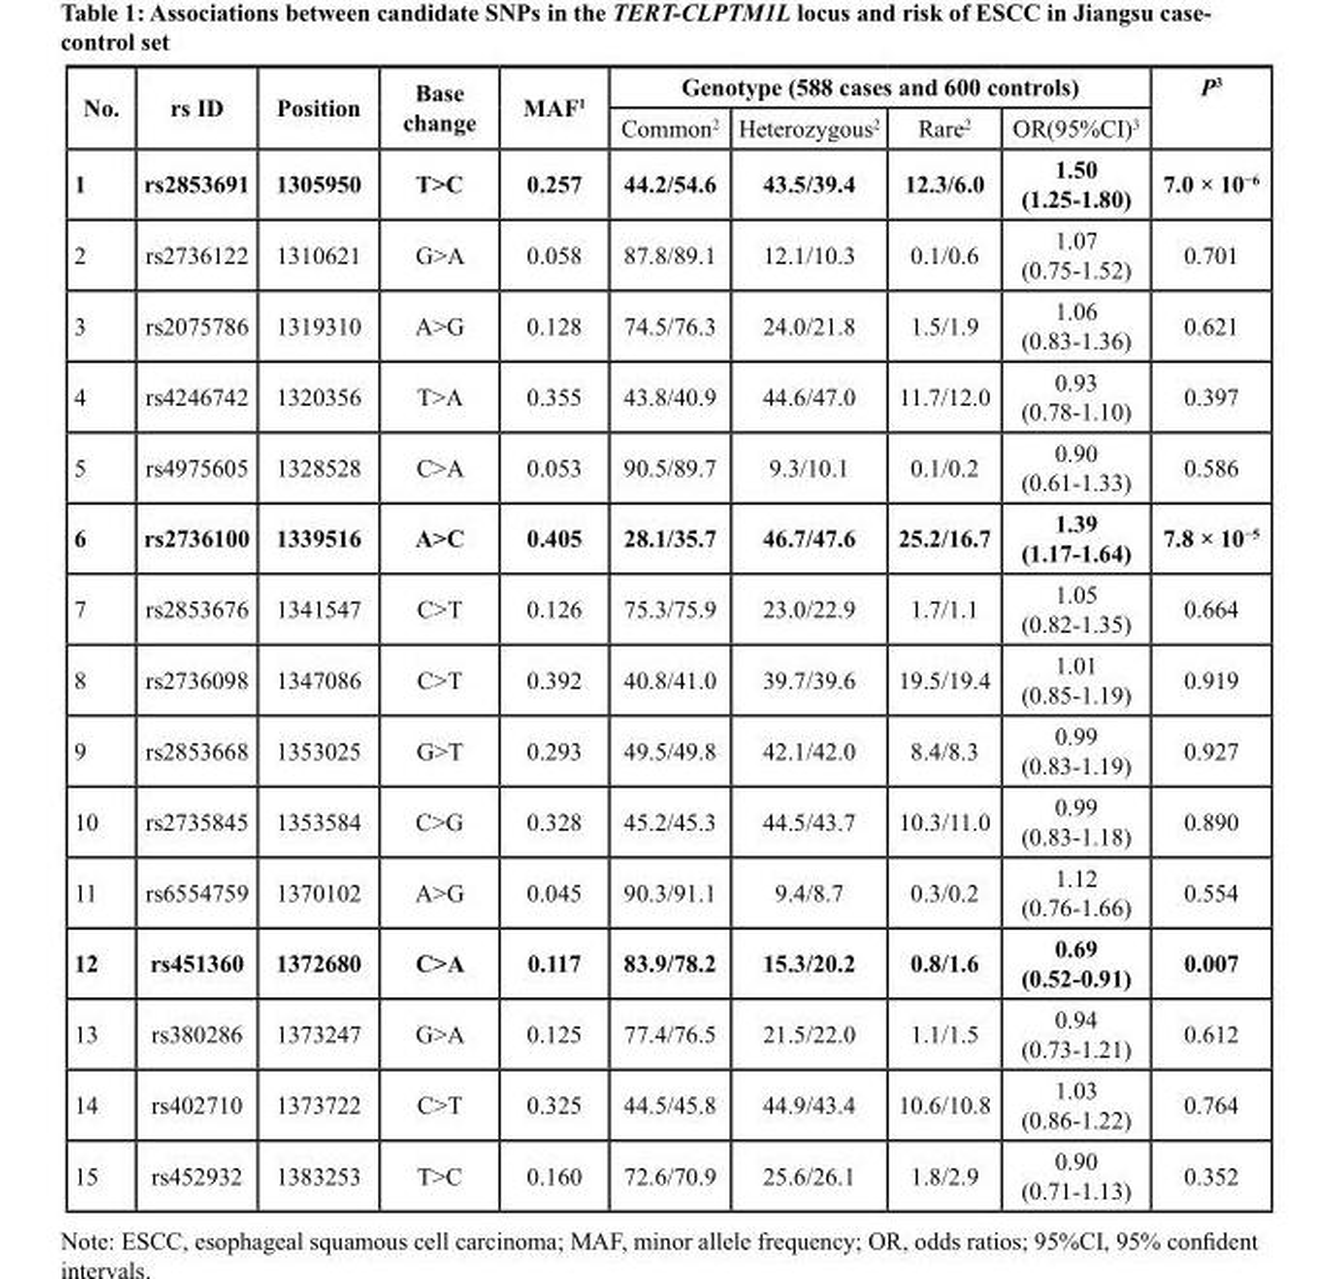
<table><thead><tr><td rowspan="2">No.</td><td rowspan="2">rs ID</td><td rowspan="2">Position</td><td rowspan="2">Base change</td><td rowspan="2">MAF<sup>1</sup></td><td colspan="4">Genotype (588 cases and 600 controls)</td><td rowspan="2">P<sup>3</sup></td></tr><tr><td>Common<sup>2</sup></td><td>Heterozygous<sup>2</sup></td><td>Rare<sup>2</sup></td><td>OR(95%CI)<sup>3</sup></td></tr></thead><tbody><tr><td>1</td><td>rs2853691</td><td>1305950</td><td>T&gt;C</td><td>0.257</td><td>44.2/54.6</td><td>43.5/39.4</td><td>12.3/6.0</td><td>1.50 (1.25-1.80)</td><td>7.0 × 10<sup>−6</sup></td></tr><tr><td>2</td><td>rs2736122</td><td>1310621</td><td>G&gt;A</td><td>0.058</td><td>87.8/89.1</td><td>12.1/10.3</td><td>0.1/0.6</td><td>1.07 (0.75-1.52)</td><td>0.701</td></tr><tr><td>3</td><td>rs2075786</td><td>1319310</td><td>A&gt;G</td><td>0.128</td><td>74.5/76.3</td><td>24.0/21.8</td><td>1.5/1.9</td><td>1.06 (0.83-1.36)</td><td>0.621</td></tr><tr><td>4</td><td>rs4246742</td><td>1320356</td><td>T&gt;A</td><td>0.355</td><td>43.8/40.9</td><td>44.6/47.0</td><td>11.7/12.0</td><td>0.93 (0.78-1.10)</td><td>0.397</td></tr><tr><td>5</td><td>rs4975605</td><td>1328528</td><td>C&gt;A</td><td>0.053</td><td>90.5/89.7</td><td>9.3/10.1</td><td>0.1/0.2</td><td>0.90 (0.61-1.33)</td><td>0.586</td></tr><tr><td>6</td><td>rs2736100</td><td>1339516</td><td>A&gt;C</td><td>0.405</td><td>28.1/35.7</td><td>46.7/47.6</td><td>25.2/16.7</td><td>1.39 (1.17-1.64)</td><td>7.8 × 10<sup>−5</sup></td></tr><tr><td>7</td><td>rs2853676</td><td>1341547</td><td>C&gt;T</td><td>0.126</td><td>75.3/75.9</td><td>23.0/22.9</td><td>1.7/1.1</td><td>1.05 (0.82-1.35)</td><td>0.664</td></tr><tr><td>8</td><td>rs2736098</td><td>1347086</td><td>C&gt;T</td><td>0.392</td><td>40.8/41.0</td><td>39.7/39.6</td><td>19.5/19.4</td><td>1.01 (0.85-1.19)</td><td>0.919</td></tr><tr><td>9</td><td>rs2853668</td><td>1353025</td><td>G&gt;T</td><td>0.293</td><td>49.5/49.8</td><td>42.1/42.0</td><td>8.4/8.3</td><td>0.99 (0.83-1.19)</td><td>0.927</td></tr><tr><td>10</td><td>rs2735845</td><td>1353584</td><td>C&gt;G</td><td>0.328</td><td>45.2/45.3</td><td>44.5/43.7</td><td>10.3/11.0</td><td>0.99 (0.83-1.18)</td><td>0.890</td></tr><tr><td>11</td><td>rs6554759</td><td>1370102</td><td>A&gt;G</td><td>0.045</td><td>90.3/91.1</td><td>9.4/8.7</td><td>0.3/0.2</td><td>1.12 (0.76-1.66)</td><td>0.554</td></tr><tr><td>12</td><td>rs451360</td><td>1372680</td><td>C&gt;A</td><td>0.117</td><td>83.9/78.2</td><td>15.3/20.2</td><td>0.8/1.6</td><td>0.69 (0.52-0.91)</td><td>0.007</td></tr><tr><td>13</td><td>rs380286</td><td>1373247</td><td>G&gt;A</td><td>0.125</td><td>77.4/76.5</td><td>21.5/22.0</td><td>1.1/1.5</td><td>0.94 (0.73-1.21)</td><td>0.612</td></tr><tr><td>14</td><td>rs402710</td><td>1373722</td><td>C&gt;T</td><td>0.325</td><td>44.5/45.8</td><td>44.9/43.4</td><td>10.6/10.8</td><td>1.03 (0.86-1.22)</td><td>0.764</td></tr><tr><td>15</td><td>rs452932</td><td>1383253</td><td>T&gt;C</td><td>0.160</td><td>72.6/70.9</td><td>25.6/26.1</td><td>1.8/2.9</td><td>0.90 (0.71-1.13)</td><td>0.352</td></tr></tbody></table>